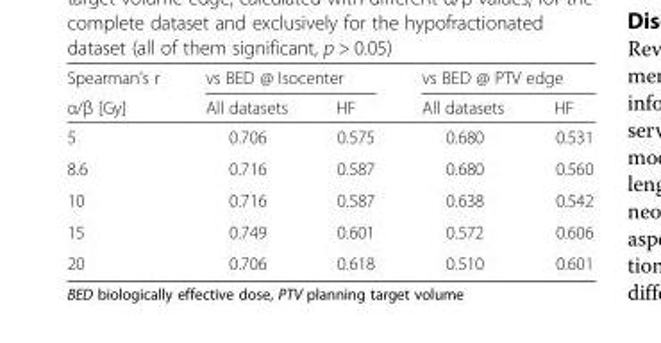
<table><thead><tr><td rowspan="2">Spearman’s r α/β [Gy]</td><td colspan="2">vs BED @ Isocenter</td><td colspan="2">vs BED @ PTV edge</td></tr><tr><td>All datasets</td><td>HF</td><td>All datasets</td><td>HF</td></tr></thead><tbody><tr><td>5</td><td>0.706</td><td>0.575</td><td>0.680</td><td>0.531</td></tr><tr><td>8.6</td><td>0.716</td><td>0.587</td><td>0.680</td><td>0.560</td></tr><tr><td>10</td><td>0.716</td><td>0.587</td><td>0.638</td><td>0.542</td></tr><tr><td>15</td><td>0.749</td><td>0.601</td><td>0.572</td><td>0.606</td></tr><tr><td>20</td><td>0.706</td><td>0.618</td><td>0.510</td><td>0.601</td></tr></tbody></table>